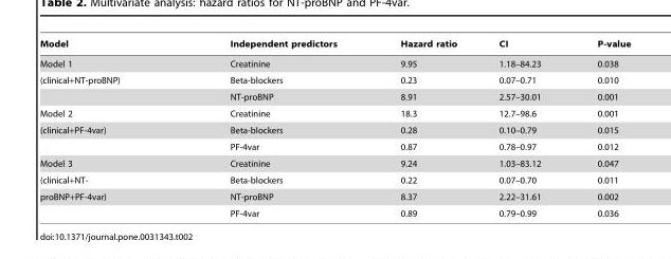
<table><thead><tr><td>Model</td><td>Independent predictors</td><td>Hazard ratio</td><td>CI</td><td>P-value</td></tr></thead><tbody><tr><td>Model 1</td><td>Creatinine</td><td>9.95</td><td>1.18–84.23</td><td>0.038</td></tr><tr><td rowspan="2">(clinical+NT-proBNP)</td><td>Beta-blockers</td><td>0.23</td><td>0.07–0.71</td><td>0.010</td></tr><tr><td>NT-proBNP</td><td>8.91</td><td>2.57–30.01</td><td>0.001</td></tr><tr><td>Model 2</td><td>Creatinine</td><td>18.3</td><td>12.7–98.6</td><td>0.001</td></tr><tr><td rowspan="2">(clinical+PF-4var)</td><td>Beta-blockers</td><td>0.28</td><td>0.10–0.79</td><td>0.015</td></tr><tr><td>PF-4var</td><td>0.87</td><td>0.78–0.97</td><td>0.012</td></tr><tr><td>Model 3</td><td>Creatinine</td><td>9.24</td><td>1.03–83.12</td><td>0.047</td></tr><tr><td>(clinical+NT-</td><td>Beta-blockers</td><td>0.22</td><td>0.07–0.70</td><td>0.011</td></tr><tr><td rowspan="2">proBNP+PF-4var)</td><td>NT-proBNP</td><td>8.37</td><td>2.22–31.61</td><td>0.002</td></tr><tr><td>PF-4var</td><td>0.89</td><td>0.79–0.99</td><td>0.036</td></tr></tbody></table>